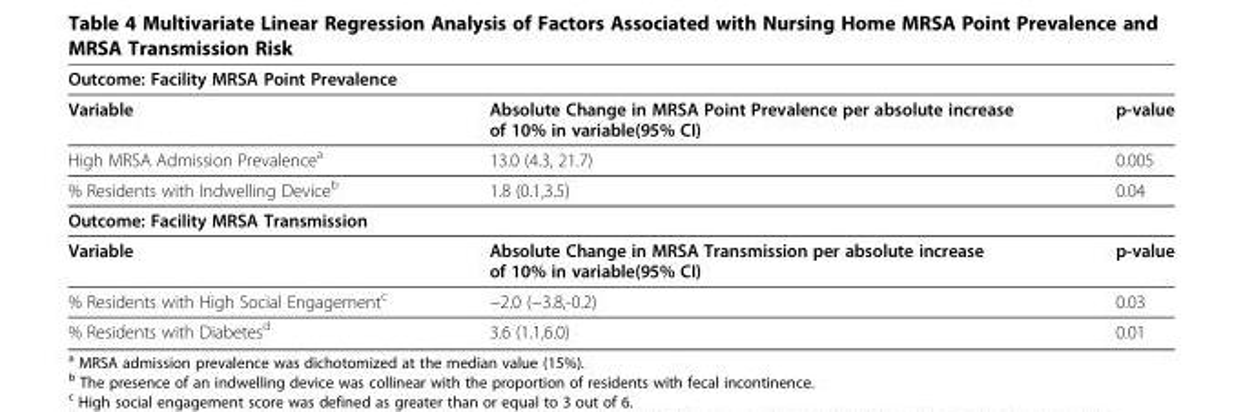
<table><thead><tr><td colspan="3">Outcome: Facility MRSA Point Prevalence</td></tr><tr><td>Variable</td><td>Absolute Change in MRSA Point Prevalence per absolute increase of 10% in variable(95% CI)</td><td>p-value</td></tr></thead><tbody><tr><td>High MRSA Admission Prevalence<sup>a</sup></td><td>13.0 (4.3, 21.7)</td><td>0.005</td></tr><tr><td>% Residents with Indwelling Device<sup>b</sup></td><td>1.8 (0.1,3.5)</td><td>0.04</td></tr><tr><td colspan="3">Outcome: Facility MRSA Transmission</td></tr><tr><td>Variable</td><td>Absolute Change in MRSA Transmission per absolute increase of 10% in variable(95% CI)</td><td>p-value</td></tr><tr><td>% Residents with High Social Engagement<sup>c</sup></td><td>−2.0 (−3.8,-0.2)</td><td>0.03</td></tr><tr><td>% Residents with Diabetes<sup>d</sup></td><td>3.6 (1.1,6.0)</td><td>0.01</td></tr></tbody></table>